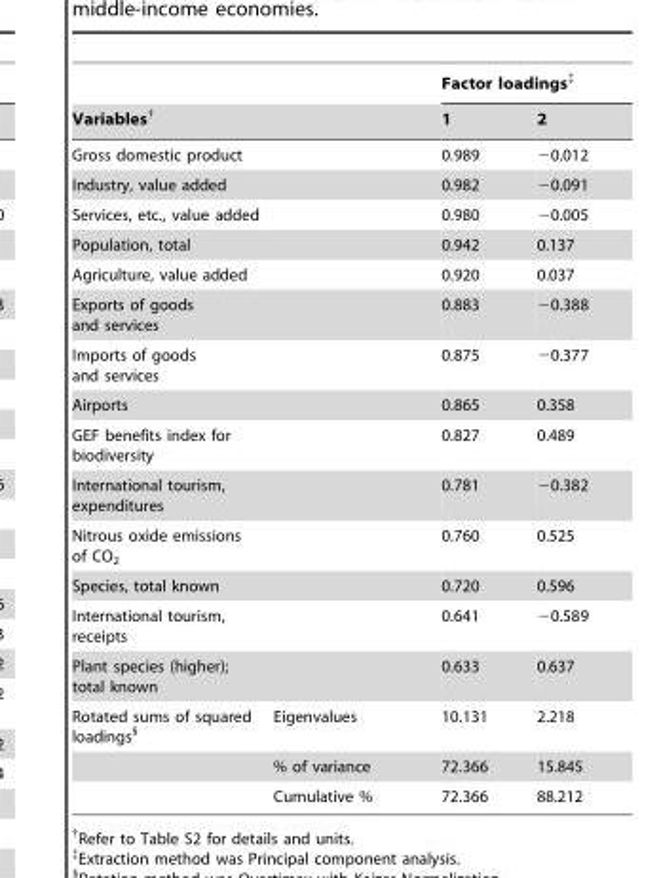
<table><thead><tr><td></td><td></td><td colspan="2">Factor loadings‡</td></tr><tr><td colspan="2">Variables†</td><td>1</td><td>2</td></tr></thead><tbody><tr><td colspan="2">Gross domestic product</td><td>0.989</td><td>−0.012</td></tr><tr><td colspan="2">Industry, value added</td><td>0.982</td><td>−0.091</td></tr><tr><td colspan="2">Services, etc., value added</td><td>0.980</td><td>−0.005</td></tr><tr><td colspan="2">Population, total</td><td>0.942</td><td>0.137</td></tr><tr><td colspan="2">Agriculture, value added</td><td>0.920</td><td>0.037</td></tr><tr><td colspan="2">Exports of goods and services</td><td>0.883</td><td>−0.388</td></tr><tr><td colspan="2">Imports of goods and services</td><td>0.875</td><td>−0.377</td></tr><tr><td colspan="2">Airports</td><td>0.865</td><td>0.358</td></tr><tr><td colspan="2">GEF benefits index for biodiversity</td><td>0.827</td><td>0.489</td></tr><tr><td colspan="2">International tourism, expenditures</td><td>0.781</td><td>−0.382</td></tr><tr><td colspan="2">Nitrous oxide emissions of CO<sub>2</sub></td><td>0.760</td><td>0.525</td></tr><tr><td colspan="2">Species, total known</td><td>0.720</td><td>0.596</td></tr><tr><td colspan="2">International tourism, receipts</td><td>0.641</td><td>−0.589</td></tr><tr><td colspan="2">Plant species (higher); total known</td><td>0.633</td><td>0.637</td></tr><tr><td rowspan="3">Rotated sums of squared loadings§</td><td>Eigenvalues</td><td>10.131</td><td>2.218</td></tr><tr><td>% of variance</td><td>72.366</td><td>15.845</td></tr><tr><td>Cumulative %</td><td>72.366</td><td>88.212</td></tr></tbody></table>